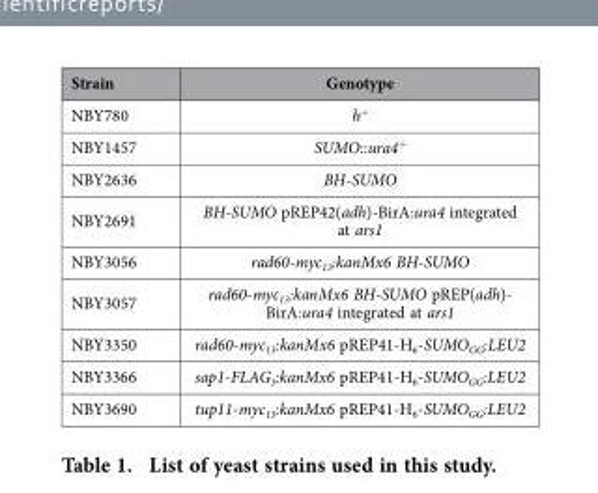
<table><thead><tr><td>Strain</td><td>Genotype</td></tr></thead><tbody><tr><td>NBY780</td><td>h<sup>+</sup></td></tr><tr><td>NBY1457</td><td>SUMO::ura4<sup>+</sup></td></tr><tr><td>NBY2636</td><td>BH-SUMO</td></tr><tr><td>NBY2691</td><td>BH-SUMO pREP42(adh)-BirA:ura4 integrated at ars1</td></tr><tr><td>NBY3056</td><td>rad60-myc<sub>13</sub>:kanMx6 BH-SUMO</td></tr><tr><td>NBY3057</td><td>rad60-myc<sub>13</sub>:kanMx6 BH-SUMO pREP(adh)- BirA:ura4 integrated at ars1</td></tr><tr><td>NBY3350</td><td>rad60-myc<sub>13</sub>:kanMx6 pREP41-H<sub>6</sub>-SUMO<sub>GG</sub>:LEU2</td></tr><tr><td>NBY3366</td><td>sap1-FLAG<sub>3</sub>:kanMx6 pREP41-H<sub>6</sub>-SUMO<sub>GG</sub>:LEU2</td></tr><tr><td>NBY3690</td><td>tup11-myc<sub>13</sub>:kanMx6 pREP41-H<sub>6</sub>-SUMO<sub>GG</sub>:LEU2</td></tr></tbody></table>